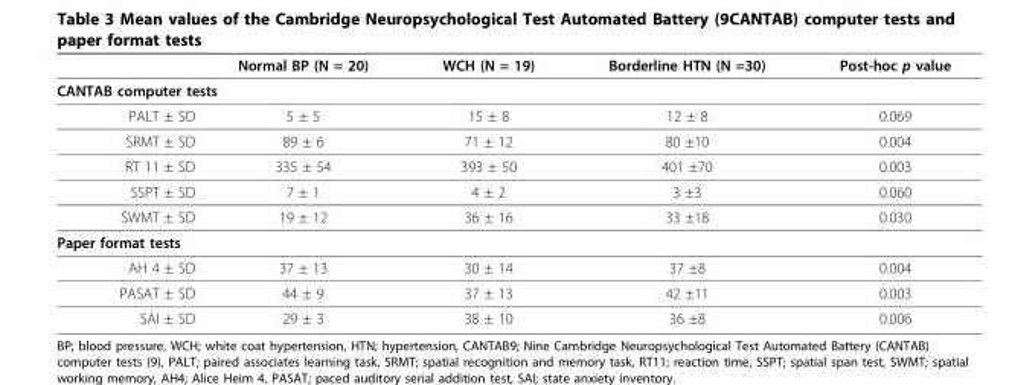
<table><thead><tr><td></td><td>Normal BP (N = 20)</td><td>WCH (N = 19)</td><td>Borderline HTN (N =30)</td><td>Post-hoc p value</td></tr></thead><tbody><tr><td colspan="5">CANTAB computer tests</td></tr><tr><td>PALT ± SD</td><td>5 ± 5</td><td>15 ± 8</td><td>12 ± 8</td><td>0.069</td></tr><tr><td>SRMT ± SD</td><td>89 ± 6</td><td>71 ± 12</td><td>80 ±10</td><td>0.004</td></tr><tr><td>RT 11 ± SD</td><td>335 ± 54</td><td>393 ± 50</td><td>401 ±70</td><td>0.003</td></tr><tr><td>SSPT ± SD</td><td>7 ± 1</td><td>4 ± 2</td><td>3 ±3</td><td>0.060</td></tr><tr><td>SWMT ± SD</td><td>19 ± 12</td><td>36 ± 16</td><td>33 ±18</td><td>0.030</td></tr><tr><td colspan="5">Paper format tests</td></tr><tr><td>AH 4 ± SD</td><td>37 ± 13</td><td>30 ± 14</td><td>37 ±8</td><td>0.004</td></tr><tr><td>PASAT ± SD</td><td>44 ± 9</td><td>37 ± 13</td><td>42 ±11</td><td>0.003</td></tr><tr><td>SAI ± SD</td><td>29 ± 3</td><td>38 ± 10</td><td>36 ±8</td><td>0.006</td></tr></tbody></table>